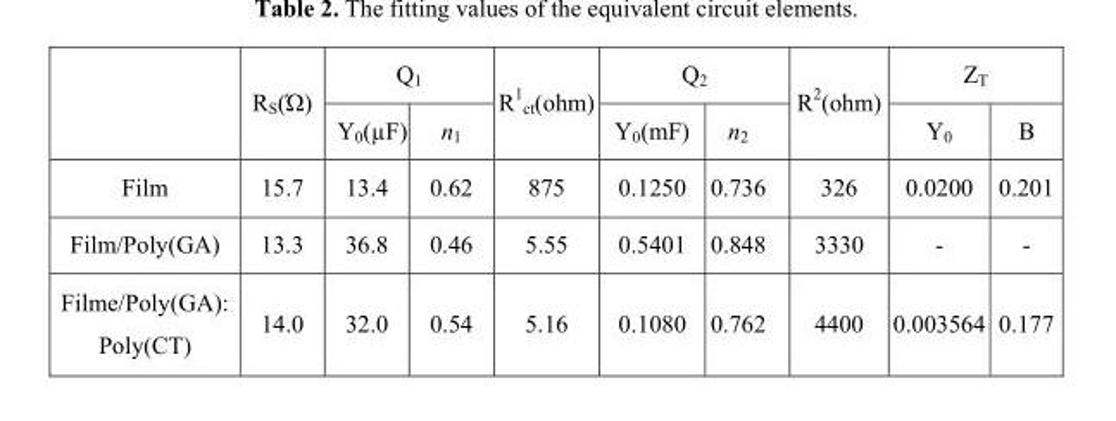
<table><thead><tr><td rowspan="2"></td><td rowspan="2">RS(Ώ)</td><td colspan="2">Q<sub>1</sub></td><td rowspan="2">R<sup>1</sup> <sub>ct</sub>(ohm)</td><td colspan="2">Q<sub>2</sub></td><td rowspan="2">R<sup>2</sup>(ohm)</td><td colspan="2">Z<sub>T</sub></td></tr><tr><td>Y<sub>0</sub>(µF)</td><td>n<sub>1</sub></td><td>Y<sub>0</sub>(mF)</td><td>n<sub>2</sub></td><td>Y<sub>0</sub></td><td>B</td></tr></thead><tbody><tr><td>Film</td><td>15.7</td><td>13.4</td><td>0.62</td><td>875</td><td>0.1250</td><td>0.736</td><td>326</td><td>0.0200</td><td>0.201</td></tr><tr><td>Film/Poly(GA)</td><td>13.3</td><td>36.8</td><td>0.46</td><td>5.55</td><td>0.5401</td><td>0.848</td><td>3330</td><td>-</td><td>-</td></tr><tr><td>Filme/Poly(GA): Poly(CT)</td><td>14.0</td><td>32.0</td><td>0.54</td><td>5.16</td><td>0.1080</td><td>0.762</td><td>4400</td><td>0.003564</td><td>0.177</td></tr></tbody></table>